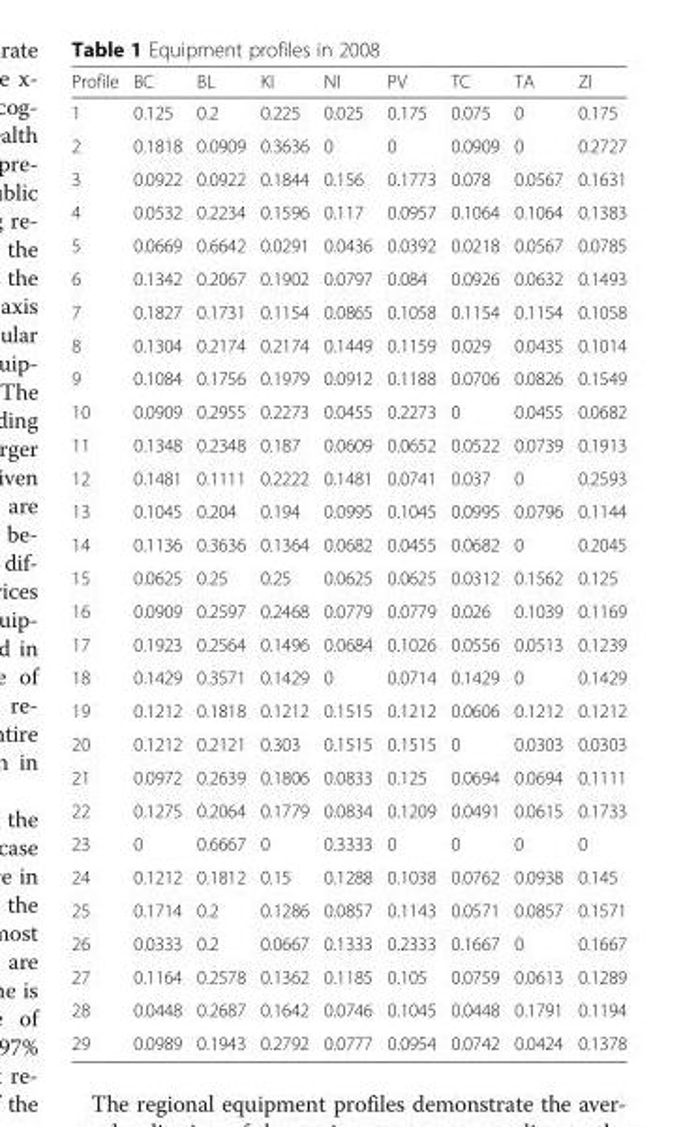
<table><thead><tr><td>Profile</td><td>BC</td><td>BL</td><td>KI</td><td>NI</td><td>PV</td><td>TC</td><td>TA</td><td>ZI</td></tr></thead><tbody><tr><td>1</td><td>0.125</td><td>0.2</td><td>0.225</td><td>0.025</td><td>0.175</td><td>0.075</td><td>0</td><td>0.175</td></tr><tr><td>2</td><td>0.1818</td><td>0.0909</td><td>0.3636</td><td>0</td><td>0</td><td>0.0909</td><td>0</td><td>0.2727</td></tr><tr><td>3</td><td>0.0922</td><td>0.0922</td><td>0.1844</td><td>0.156</td><td>0.1773</td><td>0.078</td><td>0.0567</td><td>0.1631</td></tr><tr><td>4</td><td>0.0532</td><td>0.2234</td><td>0.1596</td><td>0.117</td><td>0.0957</td><td>0.1064</td><td>0.1064</td><td>0.1383</td></tr><tr><td>5</td><td>0.0669</td><td>0.6642</td><td>0.0291</td><td>0.0436</td><td>0.0392</td><td>0.0218</td><td>0.0567</td><td>0.0785</td></tr><tr><td>6</td><td>0.1342</td><td>0.2067</td><td>0.1902</td><td>0.0797</td><td>0.084</td><td>0.0926</td><td>0.0632</td><td>0.1493</td></tr><tr><td>7</td><td>0.1827</td><td>0.1731</td><td>0.1154</td><td>0.0865</td><td>0.1058</td><td>0.1154</td><td>0.1154</td><td>0.1058</td></tr><tr><td>8</td><td>0.1304</td><td>0.2174</td><td>0.2174</td><td>0.1449</td><td>0.1159</td><td>0.029</td><td>0.0435</td><td>0.1014</td></tr><tr><td>9</td><td>0.1084</td><td>0.1756</td><td>0.1979</td><td>0.0912</td><td>0.1188</td><td>0.0706</td><td>0.0826</td><td>0.1549</td></tr><tr><td>10</td><td>0.0909</td><td>0.2955</td><td>0.2273</td><td>0.0455</td><td>0.2273</td><td>0</td><td>0.0455</td><td>0.0682</td></tr><tr><td>11</td><td>0.1348</td><td>0.2348</td><td>0.187</td><td>0.0609</td><td>0.0652</td><td>0.0522</td><td>0.0739</td><td>0.1913</td></tr><tr><td>12</td><td>0.1481</td><td>0.1111</td><td>0.2222</td><td>0.1481</td><td>0.0741</td><td>0.037</td><td>0</td><td>0.2593</td></tr><tr><td>13</td><td>0.1045</td><td>0.204</td><td>0.194</td><td>0.0995</td><td>0.1045</td><td>0.0995</td><td>0.0796</td><td>0.1144</td></tr><tr><td>14</td><td>0.1136</td><td>0.3636</td><td>0.1364</td><td>0.0682</td><td>0.0455</td><td>0.0682</td><td>0</td><td>0.2045</td></tr><tr><td>15</td><td>0.0625</td><td>0.25</td><td>0.25</td><td>0.0625</td><td>0.0625</td><td>0.0312</td><td>0.1562</td><td>0.125</td></tr><tr><td>16</td><td>0.0909</td><td>0.2597</td><td>0.2468</td><td>0.0779</td><td>0.0779</td><td>0.026</td><td>0.1039</td><td>0.1169</td></tr><tr><td>17</td><td>0.1923</td><td>0.2564</td><td>0.1496</td><td>0.0684</td><td>0.1026</td><td>0.0556</td><td>0.0513</td><td>0.1239</td></tr><tr><td>18</td><td>0.1429</td><td>0.3571</td><td>0.1429</td><td>0</td><td>0.0714</td><td>0.1429</td><td>0</td><td>0.1429</td></tr><tr><td>19</td><td>0.1212</td><td>0.1818</td><td>0.1212</td><td>0.1515</td><td>0.1212</td><td>0.0606</td><td>0.1212</td><td>0.1212</td></tr><tr><td>20</td><td>0.1212</td><td>0.2121</td><td>0.303</td><td>0.1515</td><td>0.1515</td><td>0</td><td>0.0303</td><td>0.0303</td></tr><tr><td>21</td><td>0.0972</td><td>0.2639</td><td>0.1806</td><td>0.0833</td><td>0.125</td><td>0.0694</td><td>0.0694</td><td>0.1111</td></tr><tr><td>22</td><td>0.1275</td><td>0.2064</td><td>0.1779</td><td>0.0834</td><td>0.1209</td><td>0.0491</td><td>0.0615</td><td>0.1733</td></tr><tr><td>23</td><td>0</td><td>0.6667</td><td>0</td><td>0.3333</td><td>0</td><td>0</td><td>0</td><td>0</td></tr><tr><td>24</td><td>0.1212</td><td>0.1812</td><td>0.15</td><td>0.1288</td><td>0.1038</td><td>0.0762</td><td>0.0938</td><td>0.145</td></tr><tr><td>25</td><td>0.1714</td><td>0.2</td><td>0.1286</td><td>0.0857</td><td>0.1143</td><td>0.0571</td><td>0.0857</td><td>0.1571</td></tr><tr><td>26</td><td>0.0333</td><td>0.2</td><td>0.0667</td><td>0.1333</td><td>0.2333</td><td>0.1667</td><td>0</td><td>0.1667</td></tr><tr><td>27</td><td>0.1164</td><td>0.2578</td><td>0.1362</td><td>0.1185</td><td>0.105</td><td>0.0759</td><td>0.0613</td><td>0.1289</td></tr><tr><td>28</td><td>0.0448</td><td>0.2687</td><td>0.1642</td><td>0.0746</td><td>0.1045</td><td>0.0448</td><td>0.1791</td><td>0.1194</td></tr><tr><td>29</td><td>0.0989</td><td>0.1943</td><td>0.2792</td><td>0.0777</td><td>0.0954</td><td>0.0742</td><td>0.0424</td><td>0.1378</td></tr></tbody></table>